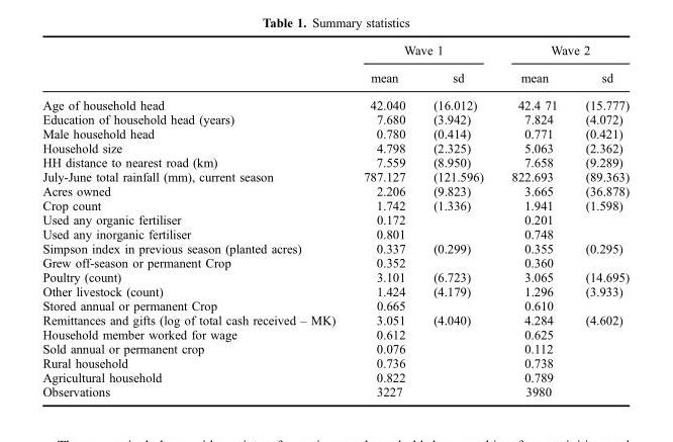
<table><thead><tr><td rowspan="2"></td><td colspan="2">Wave 1</td><td colspan="2">Wave 2</td></tr><tr><td>mean</td><td>sd</td><td>mean</td><td>sd</td></tr></thead><tbody><tr><td>Age of household head</td><td>42.040</td><td>(16.012)</td><td>42.4 71</td><td>(15.777)</td></tr><tr><td>Education of household head (years)</td><td>7.680</td><td>(3.942)</td><td>7.824</td><td>(4.072)</td></tr><tr><td>Male household head</td><td>0.780</td><td>(0.414)</td><td>0.771</td><td>(0.421)</td></tr><tr><td>Household size</td><td>4.798</td><td>(2.325)</td><td>5.063</td><td>(2.362)</td></tr><tr><td>HH distance to nearest road (km)</td><td>7.559</td><td>(8.950)</td><td>7.658</td><td>(9.289)</td></tr><tr><td>July-June total rainfall (mm), current season</td><td>787.127</td><td>(121.596)</td><td>822.693</td><td>(89.363)</td></tr><tr><td>Acres owned</td><td>2.206</td><td>(9.823)</td><td>3.665</td><td>(36.878)</td></tr><tr><td>Crop count</td><td>1.742</td><td>(1.336)</td><td>1.941</td><td>(1.598)</td></tr><tr><td>Used any organic fertiliser</td><td>0.172</td><td></td><td>0.201</td><td></td></tr><tr><td>Used any inorganic fertiliser</td><td>0.801</td><td></td><td>0.748</td><td></td></tr><tr><td>Simpson index in previous season (planted acres)</td><td>0.337</td><td>(0.299)</td><td>0.355</td><td>(0.295)</td></tr><tr><td>Grew off-season or permanent Crop</td><td>0.352</td><td></td><td>0.360</td><td></td></tr><tr><td>Poultry (count)</td><td>3.101</td><td>(6.723)</td><td>3.065</td><td>(14.695)</td></tr><tr><td>Other livestock (count)</td><td>1.424</td><td>(4.179)</td><td>1.296</td><td>(3.933)</td></tr><tr><td>Stored annual or permanent Crop</td><td>0.665</td><td></td><td>0.610</td><td></td></tr><tr><td>Remittances and gifts (log of total cash received – MK)</td><td>3.051</td><td>(4.040)</td><td>4.284</td><td>(4.602)</td></tr><tr><td>Household member worked for wage</td><td>0.612</td><td></td><td>0.625</td><td></td></tr><tr><td>Sold annual or permanent crop</td><td>0.076</td><td></td><td>0.112</td><td></td></tr><tr><td>Rural household</td><td>0.736</td><td></td><td>0.738</td><td></td></tr><tr><td>Agricultural household</td><td>0.822</td><td></td><td>0.789</td><td></td></tr><tr><td>Observations</td><td>3227</td><td></td><td>3980</td><td></td></tr></tbody></table>